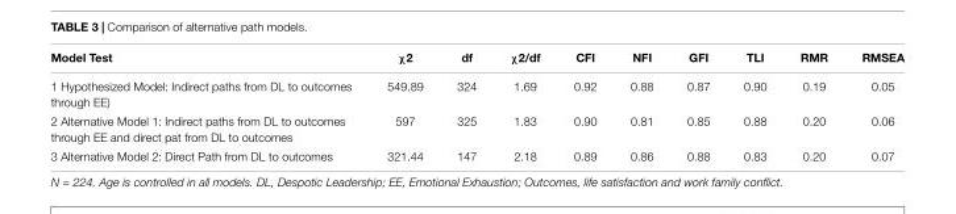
<table><thead><tr><td>Model Test</td><td>χ2</td><td>df</td><td>χ2/df</td><td>CFI</td><td>NFI</td><td>GFI</td><td>TLI</td><td>RMR</td><td>RMSEA</td></tr></thead><tbody><tr><td>1 Hypothesized Model: Indirect paths from DL to outcomes through EE)</td><td>549.89</td><td>324</td><td>1.69</td><td>0.92</td><td>0.88</td><td>0.87</td><td>0.90</td><td>0.19</td><td>0.05</td></tr><tr><td>2 Alternative Model 1: Indirect paths from DL to outcomes through EE and direct pat from DL to outcomes</td><td>597</td><td>325</td><td>1.83</td><td>0.90</td><td>0.81</td><td>0.85</td><td>0.88</td><td>0.20</td><td>0.06</td></tr><tr><td>3 Alternative Model 2: Direct Path from DL to outcomes</td><td>321.44</td><td>147</td><td>2.18</td><td>0.89</td><td>0.86</td><td>0.88</td><td>0.83</td><td>0.20</td><td>0.07</td></tr></tbody></table>